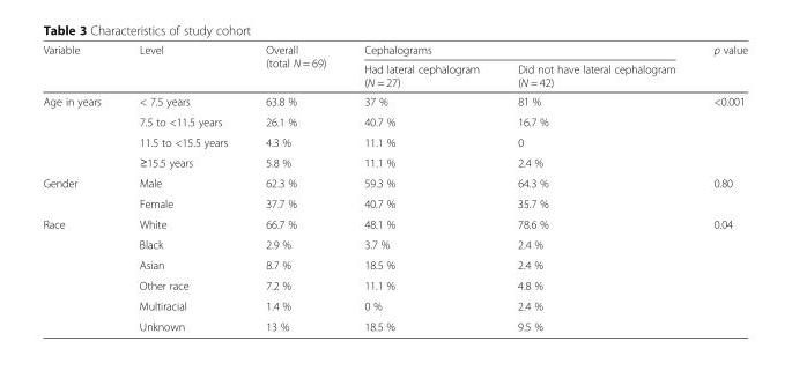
<table><thead><tr><td rowspan="2">Variable</td><td rowspan="2">Level</td><td rowspan="2">Overall (total N = 69)</td><td colspan="2">Cephalograms</td><td rowspan="2">p value</td></tr><tr><td>Had lateral cephalogram (N = 27)</td><td>Did not have lateral cephalogram (N = 42)</td></tr></thead><tbody><tr><td rowspan="4">Age in years</td><td>&lt; 7.5 years</td><td>63.8 %</td><td>37 %</td><td>81 %</td><td rowspan="4">&lt;0.001</td></tr><tr><td>7.5 to &lt;11.5 years</td><td>26.1 %</td><td>40.7 %</td><td>16.7 %</td></tr><tr><td>11.5 to &lt;15.5 years</td><td>4.3 %</td><td>11.1 %</td><td>0</td></tr><tr><td>≥15.5 years</td><td>5.8 %</td><td>11.1 %</td><td>2.4 %</td></tr><tr><td rowspan="2">Gender</td><td>Male</td><td>62.3 %</td><td>59.3 %</td><td>64.3 %</td><td rowspan="2">0.80</td></tr><tr><td>Female</td><td>37.7 %</td><td>40.7 %</td><td>35.7 %</td></tr><tr><td rowspan="6">Race</td><td>White</td><td>66.7 %</td><td>48.1 %</td><td>78.6 %</td><td rowspan="6">0.04</td></tr><tr><td>Black</td><td>2.9 %</td><td>3.7 %</td><td>2.4 %</td></tr><tr><td>Asian</td><td>8.7 %</td><td>18.5 %</td><td>2.4 %</td></tr><tr><td>Other race</td><td>7.2 %</td><td>11.1 %</td><td>4.8 %</td></tr><tr><td>Multiracial</td><td>1.4 %</td><td>0 %</td><td>2.4 %</td></tr><tr><td>Unknown</td><td>13 %</td><td>18.5 %</td><td>9.5 %</td></tr></tbody></table>